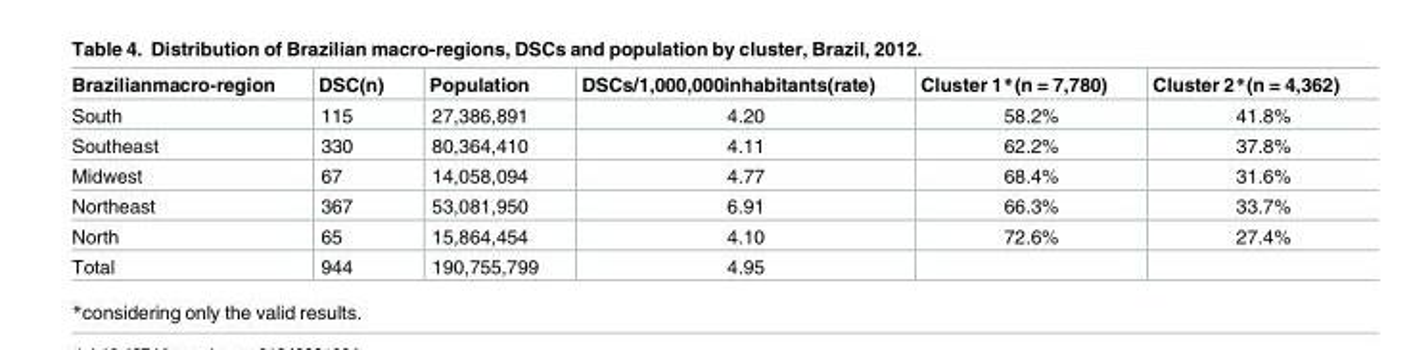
<table><thead><tr><td>Brazilianmacro-region</td><td>DSC(n)</td><td>Population</td><td>DSCs/1,000,000inhabitants(rate)</td><td>Cluster 1*(n = 7,780)</td><td>Cluster 2*(n = 4,362)</td></tr></thead><tbody><tr><td>South</td><td>115</td><td>27,386,891</td><td>4.20</td><td>58.2%</td><td>41.8%</td></tr><tr><td>Southeast</td><td>330</td><td>80,364,410</td><td>4.11</td><td>62.2%</td><td>37.8%</td></tr><tr><td>Midwest</td><td>67</td><td>14,058,094</td><td>4.77</td><td>68.4%</td><td>31.6%</td></tr><tr><td>Northeast</td><td>367</td><td>53,081,950</td><td>6.91</td><td>66.3%</td><td>33.7%</td></tr><tr><td>North</td><td>65</td><td>15,864,454</td><td>4.10</td><td>72.6%</td><td>27.4%</td></tr><tr><td>Total</td><td>944</td><td>190,755,799</td><td>4.95</td><td></td><td></td></tr></tbody></table>